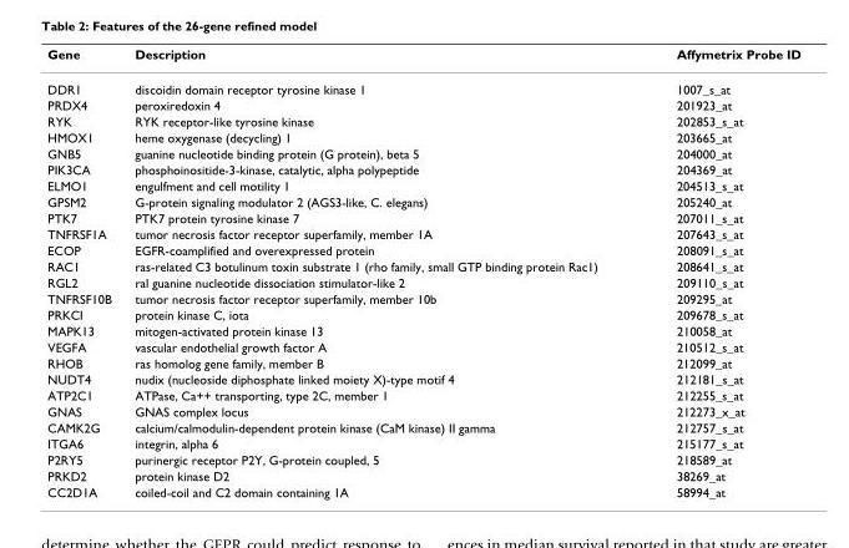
<table><thead><tr><td>Gene</td><td>Description</td><td>Affymetrix Probe ID</td></tr></thead><tbody><tr><td>DDR1</td><td>discoidin domain receptor tyrosine kinase 1</td><td>1007_s_at</td></tr><tr><td>PRDX4</td><td>peroxiredoxin 4</td><td>201923_at</td></tr><tr><td>RYK</td><td>RYK receptor-like tyrosine kinase</td><td>202853_s_at</td></tr><tr><td>HMOX1</td><td>heme oxygenase (decycling) 1</td><td>203665_at</td></tr><tr><td>GNB5</td><td>guanine nucleotide binding protein (G protein), beta 5</td><td>204000_at</td></tr><tr><td>PIK3CA</td><td>phosphoinositide-3-kinase, catalytic, alpha polypeptide</td><td>204369_at</td></tr><tr><td>ELMO1</td><td>engulfment and cell motility 1</td><td>204513_s_at</td></tr><tr><td>GPSM2</td><td>G-protein signaling modulator 2 (AGS3-like, C. elegans)</td><td>205240_at</td></tr><tr><td>PTK7</td><td>PTK7 protein tyrosine kinase 7</td><td>207011_s_at</td></tr><tr><td>TNFRSF1A</td><td>tumor necrosis factor receptor superfamily, member 1A</td><td>207643_s_at</td></tr><tr><td>ECOP</td><td>EGFR-coamplified and overexpressed protein</td><td>208091_s_at</td></tr><tr><td>RAC1</td><td>ras-related C3 botulinum toxin substrate 1 (rho family, small GTP binding protein Rac1)</td><td>208641_s_at</td></tr><tr><td>RGL2</td><td>ral guanine nucleotide dissociation stimulator-like 2</td><td>209110_s_at</td></tr><tr><td>TNFRSF10B</td><td>tumor necrosis factor receptor superfamily, member 10b</td><td>209295_at</td></tr><tr><td>PRKCI</td><td>protein kinase C, iota</td><td>209678_s_at</td></tr><tr><td>MAPK13</td><td>mitogen-activated protein kinase 13</td><td>210058_at</td></tr><tr><td>VEGFA</td><td>vascular endothelial growth factor A</td><td>210512_s_at</td></tr><tr><td>RHOB</td><td>ras homolog gene family, member B</td><td>212099_at</td></tr><tr><td>NUDT4</td><td>nudix (nucleoside diphosphate linked moiety X)-type motif 4</td><td>212181_s_at</td></tr><tr><td>ATP2C1</td><td>ATPase, Ca++ transporting, type 2C, member 1</td><td>212255_s_at</td></tr><tr><td>GNAS</td><td>GNAS complex locus</td><td>212273_x_at</td></tr><tr><td>CAMK2G</td><td>calcium/calmodulin-dependent protein kinase (CaM kinase) II gamma</td><td>212757_s_at</td></tr><tr><td>ITGA6</td><td>integrin, alpha 6</td><td>215177_s_at</td></tr><tr><td>P2RY5</td><td>purinergic receptor P2Y, G-protein coupled, 5</td><td>218589_at</td></tr><tr><td>PRKD2</td><td>protein kinase D2</td><td>38269_at</td></tr><tr><td>CC2D1A</td><td>coiled-coil and C2 domain containing 1A</td><td>58994_at</td></tr></tbody></table>